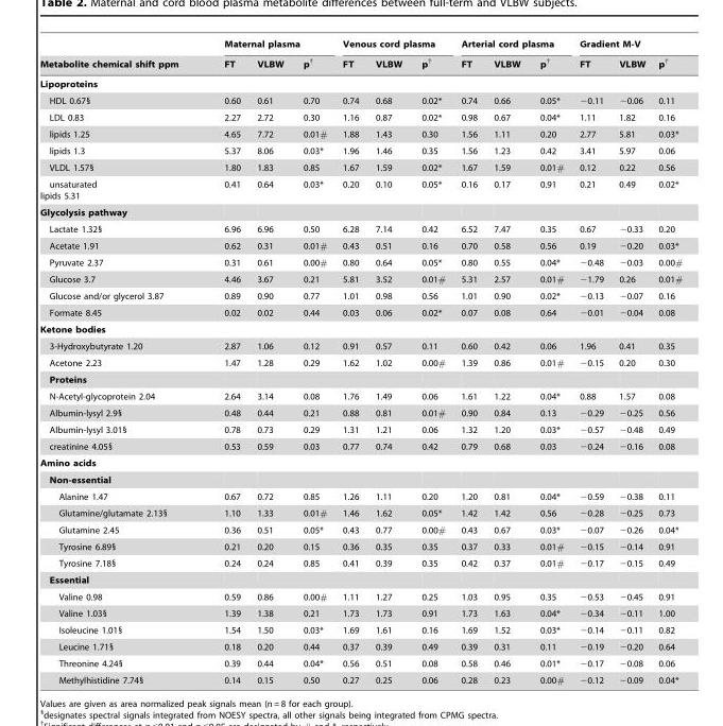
<table><thead><tr><td rowspan="2">Metabolite chemical shift ppm</td><td colspan="3">Maternal plasma</td><td colspan="3">Venous cord plasma</td><td colspan="3">Arterial cord plasma</td><td colspan="3">Gradient M-V</td></tr><tr><td>FT</td><td>VLBW</td><td>p†</td><td>FT</td><td>VLBW</td><td>p†</td><td>FT</td><td>VLBW</td><td>p†</td><td>FT</td><td>VLBW</td><td>p†</td></tr></thead><tbody><tr><td colspan="13">Lipoproteins</td></tr><tr><td>HDL 0.67§</td><td>0.60</td><td>0.61</td><td>0.70</td><td>0.74</td><td>0.68</td><td>0.02*</td><td>0.74</td><td>0.66</td><td>0.05*</td><td>−0.11</td><td>−0.06</td><td>0.11</td></tr><tr><td>LDL 0.83</td><td>2.27</td><td>2.72</td><td>0.30</td><td>1.16</td><td>0.87</td><td>0.02*</td><td>0.98</td><td>0.67</td><td>0.04*</td><td>1.11</td><td>1.82</td><td>0.16</td></tr><tr><td>lipids 1.25</td><td>4.65</td><td>7.72</td><td>0.01#</td><td>1.88</td><td>1.43</td><td>0.30</td><td>1.56</td><td>1.11</td><td>0.20</td><td>2.77</td><td>5.81</td><td>0.03*</td></tr><tr><td>lipids 1.3</td><td>5.37</td><td>8.06</td><td>0.03*</td><td>1.96</td><td>1.46</td><td>0.35</td><td>1.56</td><td>1.23</td><td>0.42</td><td>3.41</td><td>5.97</td><td>0.06</td></tr><tr><td>VLDL 1.57§</td><td>1.80</td><td>1.83</td><td>0.85</td><td>1.67</td><td>1.59</td><td>0.02*</td><td>1.67</td><td>1.59</td><td>0.01#</td><td>0.12</td><td>0.22</td><td>0.56</td></tr><tr><td>unsaturated lipids 5.31</td><td>0.41</td><td>0.64</td><td>0.03*</td><td>0.20</td><td>0.10</td><td>0.05*</td><td>0.16</td><td>0.17</td><td>0.91</td><td>0.21</td><td>0.49</td><td>0.02*</td></tr><tr><td colspan="13">Glycolysis pathway</td></tr><tr><td>Lactate 1.32§</td><td>6.96</td><td>6.96</td><td>0.50</td><td>6.28</td><td>7.14</td><td>0.42</td><td>6.52</td><td>7.47</td><td>0.35</td><td>0.67</td><td>−0.33</td><td>0.20</td></tr><tr><td>Acetate 1.91</td><td>0.62</td><td>0.31</td><td>0.01#</td><td>0.43</td><td>0.51</td><td>0.16</td><td>0.70</td><td>0.58</td><td>0.56</td><td>0.19</td><td>−0.20</td><td>0.03*</td></tr><tr><td>Pyruvate 2.37</td><td>0.31</td><td>0.61</td><td>0.00#</td><td>0.80</td><td>0.64</td><td>0.05*</td><td>0.80</td><td>0.55</td><td>0.04*</td><td>−0.48</td><td>−0.03</td><td>0.00#</td></tr><tr><td>Glucose 3.7</td><td>4.46</td><td>3.67</td><td>0.21</td><td>5.81</td><td>3.52</td><td>0.01#</td><td>5.31</td><td>2.57</td><td>0.01#</td><td>−1.79</td><td>0.26</td><td>0.01#</td></tr><tr><td>Glucose and/or glycerol 3.87</td><td>0.89</td><td>0.90</td><td>0.77</td><td>1.01</td><td>0.98</td><td>0.56</td><td>1.01</td><td>0.90</td><td>0.02*</td><td>−0.13</td><td>−0.07</td><td>0.16</td></tr><tr><td>Formate 8.45</td><td>0.02</td><td>0.02</td><td>0.44</td><td>0.03</td><td>0.06</td><td>0.02*</td><td>0.07</td><td>0.08</td><td>0.64</td><td>−0.01</td><td>−0.04</td><td>0.08</td></tr><tr><td colspan="13">Ketone bodies</td></tr><tr><td>3-Hydroxybutyrate 1.20</td><td>2.87</td><td>1.06</td><td>0.12</td><td>0.91</td><td>0.57</td><td>0.11</td><td>0.60</td><td>0.42</td><td>0.06</td><td>1.96</td><td>0.41</td><td>0.35</td></tr><tr><td>Acetone 2.23</td><td>1.47</td><td>1.28</td><td>0.29</td><td>1.62</td><td>1.02</td><td>0.00#</td><td>1.39</td><td>0.86</td><td>0.01#</td><td>−0.15</td><td>0.20</td><td>0.30</td></tr><tr><td colspan="13">Proteins</td></tr><tr><td>N-Acetyl-glycoprotein 2.04</td><td>2.64</td><td>3.14</td><td>0.08</td><td>1.76</td><td>1.49</td><td>0.06</td><td>1.61</td><td>1.22</td><td>0.04*</td><td>0.88</td><td>1.57</td><td>0.08</td></tr><tr><td>Albumin-lysyl 2.9§</td><td>0.48</td><td>0.44</td><td>0.21</td><td>0.88</td><td>0.81</td><td>0.01#</td><td>0.90</td><td>0.84</td><td>0.13</td><td>−0.29</td><td>−0.25</td><td>0.56</td></tr><tr><td>Albumin-lysyl 3.01§</td><td>0.78</td><td>0.73</td><td>0.29</td><td>1.31</td><td>1.21</td><td>0.06</td><td>1.32</td><td>1.20</td><td>0.03*</td><td>−0.57</td><td>−0.48</td><td>0.49</td></tr><tr><td>creatinine 4.05§</td><td>0.53</td><td>0.59</td><td>0.03</td><td>0.77</td><td>0.74</td><td>0.42</td><td>0.79</td><td>0.68</td><td>0.03</td><td>−0.24</td><td>−0.16</td><td>0.08</td></tr><tr><td colspan="13">Amino acids</td></tr><tr><td colspan="13">Non-essential</td></tr><tr><td>Alanine 1.47</td><td>0.67</td><td>0.72</td><td>0.85</td><td>1.26</td><td>1.11</td><td>0.20</td><td>1.20</td><td>0.81</td><td>0.04*</td><td>−0.59</td><td>−0.38</td><td>0.11</td></tr><tr><td>Glutamine/glutamate 2.13§</td><td>1.10</td><td>1.33</td><td>0.01#</td><td>1.46</td><td>1.62</td><td>0.05*</td><td>1.42</td><td>1.42</td><td>0.56</td><td>−0.28</td><td>−0.25</td><td>0.73</td></tr><tr><td>Glutamine 2.45</td><td>0.36</td><td>0.51</td><td>0.05*</td><td>0.43</td><td>0.77</td><td>0.00#</td><td>0.43</td><td>0.67</td><td>0.03*</td><td>−0.07</td><td>−0.26</td><td>0.04*</td></tr><tr><td>Tyrosine 6.89§</td><td>0.21</td><td>0.20</td><td>0.15</td><td>0.36</td><td>0.35</td><td>0.35</td><td>0.37</td><td>0.33</td><td>0.01#</td><td>−0.15</td><td>−0.14</td><td>0.91</td></tr><tr><td>Tyrosine 7.18§</td><td>0.24</td><td>0.24</td><td>0.85</td><td>0.41</td><td>0.39</td><td>0.35</td><td>0.42</td><td>0.37</td><td>0.01#</td><td>−0.17</td><td>−0.15</td><td>0.49</td></tr><tr><td colspan="13">Essential</td></tr><tr><td>Valine 0.98</td><td>0.59</td><td>0.86</td><td>0.00#</td><td>1.11</td><td>1.27</td><td>0.25</td><td>1.03</td><td>0.95</td><td>0.35</td><td>−0.53</td><td>−0.45</td><td>0.91</td></tr><tr><td>Valine 1.03§</td><td>1.39</td><td>1.38</td><td>0.21</td><td>1.73</td><td>1.73</td><td>0.91</td><td>1.73</td><td>1.63</td><td>0.04*</td><td>−0.34</td><td>−0.11</td><td>1.00</td></tr><tr><td>Isoleucine 1.01§</td><td>1.54</td><td>1.50</td><td>0.03*</td><td>1.69</td><td>1.61</td><td>0.16</td><td>1.69</td><td>1.52</td><td>0.03*</td><td>−0.14</td><td>−0.11</td><td>0.82</td></tr><tr><td>Leucine 1.71§</td><td>0.18</td><td>0.20</td><td>0.44</td><td>0.37</td><td>0.39</td><td>0.49</td><td>0.39</td><td>0.31</td><td>0.11</td><td>−0.19</td><td>−0.20</td><td>0.64</td></tr><tr><td>Threonine 4.24§</td><td>0.39</td><td>0.44</td><td>0.04*</td><td>0.56</td><td>0.51</td><td>0.08</td><td>0.58</td><td>0.46</td><td>0.01*</td><td>−0.17</td><td>−0.08</td><td>0.06</td></tr><tr><td>Methylhistidine 7.74§</td><td>0.14</td><td>0.15</td><td>0.50</td><td>0.27</td><td>0.25</td><td>0.06</td><td>0.28</td><td>0.23</td><td>0.00#</td><td>−0.12</td><td>−0.09</td><td>0.04*</td></tr></tbody></table>